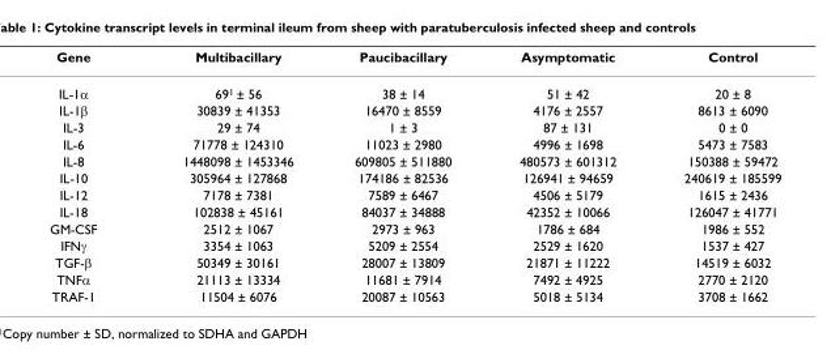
<table><thead><tr><td>Gene</td><td>Multibacillary</td><td>Paucibacillary</td><td>Asymptomatic</td><td>Control</td></tr></thead><tbody><tr><td>IL-1α</td><td>69<sup>1</sup> ± 56</td><td>38 ± 14</td><td>51 ± 42</td><td>20 ± 8</td></tr><tr><td>IL-1β</td><td>30839 ± 41353</td><td>16470 ± 8559</td><td>4176 ± 2557</td><td>8613 ± 6090</td></tr><tr><td>IL-3</td><td>29 ± 74</td><td>1 ± 3</td><td>87 ± 131</td><td>0 ± 0</td></tr><tr><td>IL-6</td><td>71778 ± 124310</td><td>11023 ± 2980</td><td>4996 ± 1698</td><td>5473 ± 7583</td></tr><tr><td>IL-8</td><td>1448098 ± 1453346</td><td>609805 ± 511880</td><td>480573 ± 601312</td><td>150388 ± 59472</td></tr><tr><td>IL-10</td><td>305964 ± 127868</td><td>174186 ± 82536</td><td>126941 ± 94659</td><td>240619 ± 185599</td></tr><tr><td>IL-12</td><td>7178 ± 7381</td><td>7589 ± 6467</td><td>4506 ± 5179</td><td>1615 ± 2436</td></tr><tr><td>IL-18</td><td>102838 ± 45161</td><td>84037 ± 34888</td><td>42352 ± 10066</td><td>126047 ± 41771</td></tr><tr><td>GM-CSF</td><td>2512 ± 1067</td><td>2973 ± 963</td><td>1786 ± 684</td><td>1986 ± 552</td></tr><tr><td>IFNγ</td><td>3354 ± 1063</td><td>5209 ± 2554</td><td>2529 ± 1620</td><td>1537 ± 427</td></tr><tr><td>TGF-β</td><td>50349 ± 30161</td><td>28007 ± 13809</td><td>21871 ± 11222</td><td>14519 ± 6032</td></tr><tr><td>TNFα</td><td>21113 ± 13334</td><td>11681 ± 7914</td><td>7492 ± 4925</td><td>2770 ± 2120</td></tr><tr><td>TRAF-1</td><td>11504 ± 6076</td><td>20087 ± 10563</td><td>5018 ± 5134</td><td>3708 ± 1662</td></tr></tbody></table>